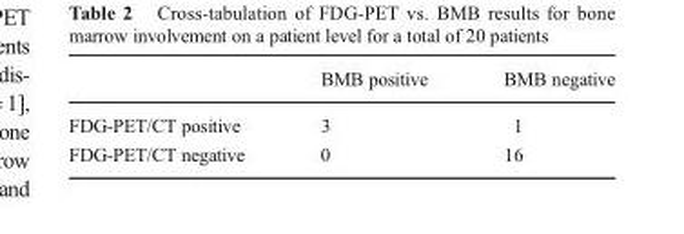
<table><thead><tr><td></td><td>BMB positive</td><td>BMB negative</td></tr></thead><tbody><tr><td>FDG-PET/CT positive</td><td>3</td><td>1</td></tr><tr><td>FDG-PET/CT negative</td><td>0</td><td>16</td></tr></tbody></table>